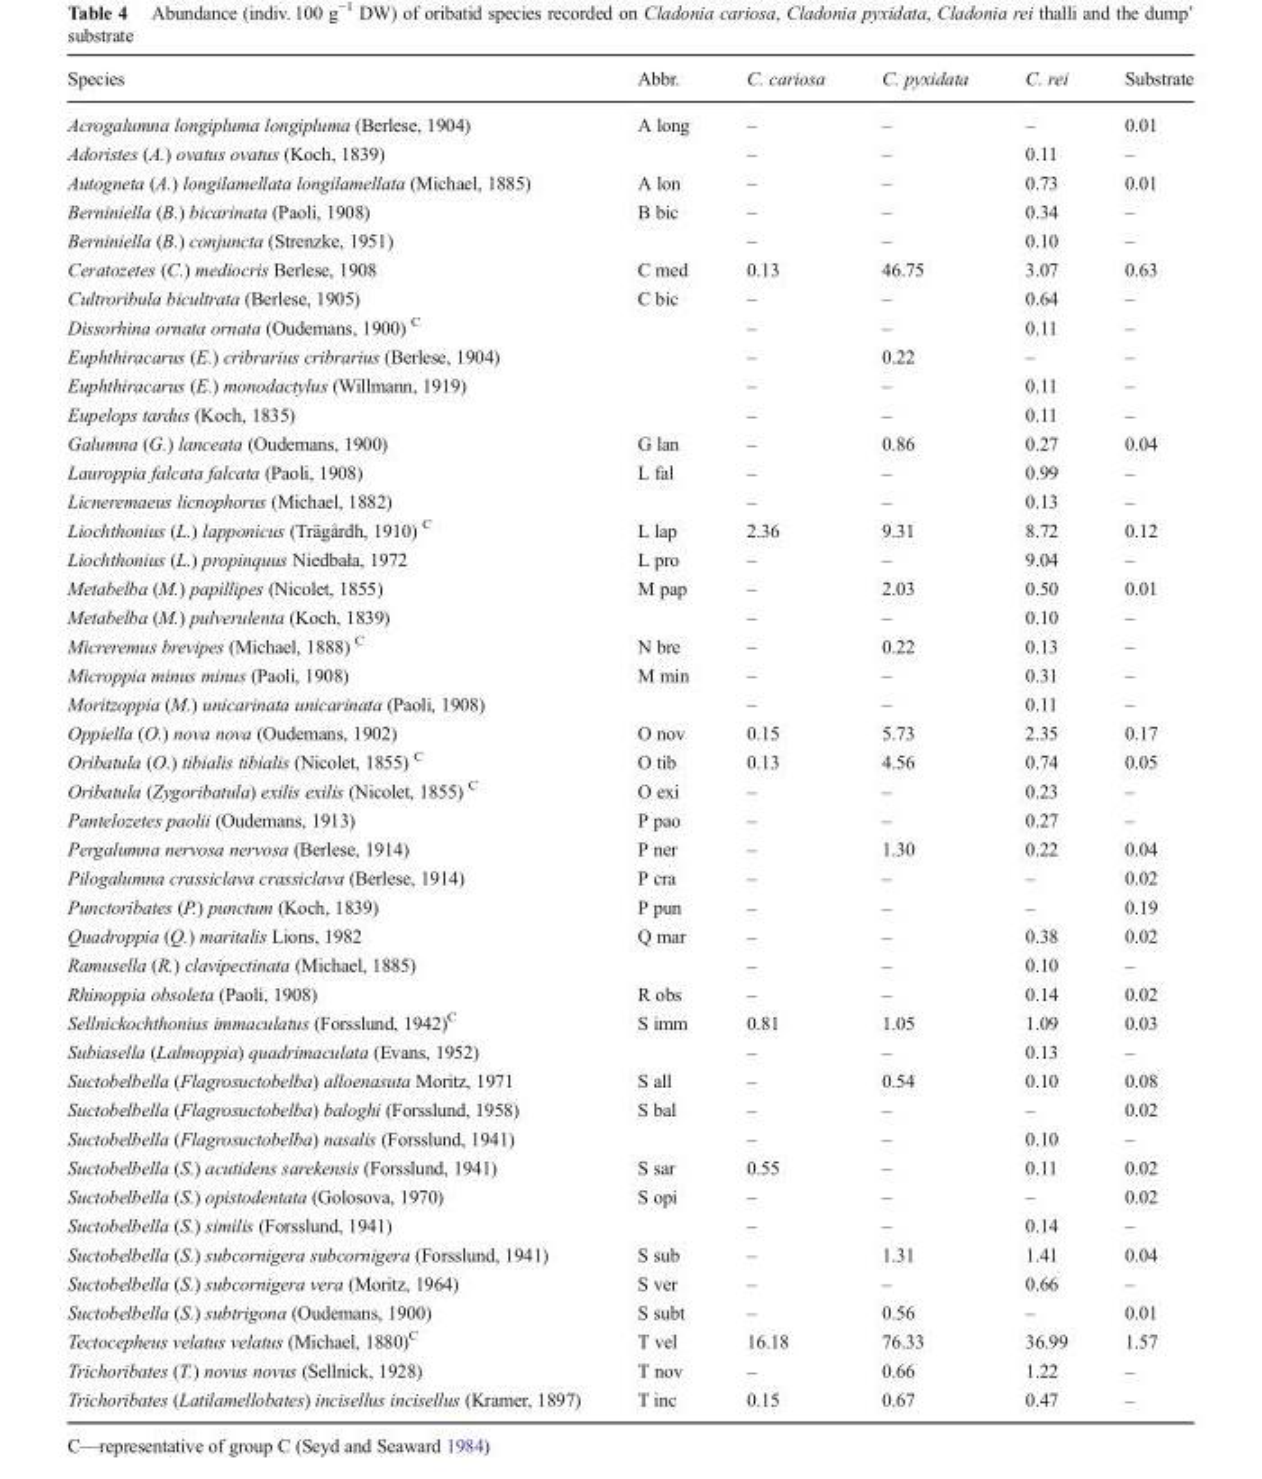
<table><thead><tr><td>Species</td><td>Abbr.</td><td>C. cariosa</td><td>C. pyxidata</td><td>C. rei</td><td>Substrate</td></tr></thead><tbody><tr><td>Acrogalumna longipluma longipluma (Berlese, 1904)</td><td>A long</td><td>–</td><td>–</td><td>–</td><td>0.01</td></tr><tr><td>Adoristes (A.) ovatus ovatus (Koch, 1839)</td><td></td><td>–</td><td>–</td><td>0.11</td><td>–</td></tr><tr><td>Autogneta (A.) longilamellata longilamellata (Michael, 1885)</td><td>A lon</td><td>–</td><td>–</td><td>0.73</td><td>0.01</td></tr><tr><td>Berniniella (B.) bicarinata (Paoli, 1908)</td><td>B bic</td><td>–</td><td>–</td><td>0.34</td><td>–</td></tr><tr><td>Berniniella (B.) conjuncta (Strenzke, 1951)</td><td></td><td>–</td><td>–</td><td>0.10</td><td>–</td></tr><tr><td>Ceratozetes (C.) mediocris Berlese, 1908</td><td>C med</td><td>0.13</td><td>46.75</td><td>3.07</td><td>0.63</td></tr><tr><td>Cultroribula bicultrata (Berlese, 1905)</td><td>C bic</td><td>–</td><td>–</td><td>0.64</td><td>–</td></tr><tr><td>Dissorhina ornata ornata (Oudemans, 1900) <sup>C</sup></td><td></td><td>–</td><td>–</td><td>0.11</td><td>–</td></tr><tr><td>Euphthiracarus (E.) cribrarius cribrarius (Berlese, 1904)</td><td></td><td>–</td><td>0.22</td><td>–</td><td>–</td></tr><tr><td>Euphthiracarus (E.) monodactylus (Willmann, 1919)</td><td></td><td>–</td><td>–</td><td>0.11</td><td>–</td></tr><tr><td>Eupelops tardus (Koch, 1835)</td><td></td><td>–</td><td>–</td><td>0.11</td><td>–</td></tr><tr><td>Galumna (G.) lanceata (Oudemans, 1900)</td><td>G lan</td><td>–</td><td>0.86</td><td>0.27</td><td>0.04</td></tr><tr><td>Lauroppia falcata falcata (Paoli, 1908)</td><td>L fal</td><td>–</td><td>–</td><td>0.99</td><td>–</td></tr><tr><td>Licneremaeus licnophorus (Michael, 1882)</td><td></td><td>–</td><td>–</td><td>0.13</td><td>–</td></tr><tr><td>Liochthonius (L.) lapponicus (Trägårdh, 1910) <sup>C</sup></td><td>L lap</td><td>2.36</td><td>9.31</td><td>8.72</td><td>0.12</td></tr><tr><td>Liochthonius (L.) propinquus Niedbała, 1972</td><td>L pro</td><td>–</td><td>–</td><td>9.04</td><td>–</td></tr><tr><td>Metabelba (M.) papillipes (Nicolet, 1855)</td><td>M pap</td><td>–</td><td>2.03</td><td>0.50</td><td>0.01</td></tr><tr><td>Metabelba (M.) pulverulenta (Koch, 1839)</td><td></td><td>–</td><td>–</td><td>0.10</td><td>–</td></tr><tr><td>Micreremus brevipes (Michael, 1888) <sup>C</sup></td><td>N bre</td><td>–</td><td>0.22</td><td>0.13</td><td>–</td></tr><tr><td>Microppia minus minus (Paoli, 1908)</td><td>M min</td><td>–</td><td>–</td><td>0.31</td><td>–</td></tr><tr><td>Moritzoppia (M.) unicarinata unicarinata (Paoli, 1908)</td><td></td><td>–</td><td>–</td><td>0.11</td><td>–</td></tr><tr><td>Oppiella (O.) nova nova (Oudemans, 1902)</td><td>O nov</td><td>0.15</td><td>5.73</td><td>2.35</td><td>0.17</td></tr><tr><td>Oribatula (O.) tibialis tibialis (Nicolet, 1855) <sup>C</sup></td><td>O tib</td><td>0.13</td><td>4.56</td><td>0.74</td><td>0.05</td></tr><tr><td>Oribatula (Zygoribatula) exilis exilis (Nicolet, 1855) <sup>C</sup></td><td>O exi</td><td>–</td><td>–</td><td>0.23</td><td>–</td></tr><tr><td>Pantelozetes paolii (Oudemans, 1913)</td><td>P pao</td><td>–</td><td>–</td><td>0.27</td><td>–</td></tr><tr><td>Pergalumna nervosa nervosa (Berlese, 1914)</td><td>P ner</td><td>–</td><td>1.30</td><td>0.22</td><td>0.04</td></tr><tr><td>Pilogalumna crassiclava crassiclava (Berlese, 1914)</td><td>P cra</td><td>–</td><td>–</td><td>–</td><td>0.02</td></tr><tr><td>Punctoribates (P.) punctum (Koch, 1839)</td><td>P pun</td><td>–</td><td>–</td><td>–</td><td>0.19</td></tr><tr><td>Quadroppia (Q.) maritalis Lions, 1982</td><td>Q mar</td><td>–</td><td>–</td><td>0.38</td><td>0.02</td></tr><tr><td>Ramusella (R.) clavipectinata (Michael, 1885)</td><td></td><td>–</td><td>–</td><td>0.10</td><td>–</td></tr><tr><td>Rhinoppia obsoleta (Paoli, 1908)</td><td>R obs</td><td>–</td><td>–</td><td>0.14</td><td>0.02</td></tr><tr><td>Sellnickochthonius immaculatus (Forsslund, 1942)<sup>C</sup></td><td>S imm</td><td>0.81</td><td>1.05</td><td>1.09</td><td>0.03</td></tr><tr><td>Subiasella (Lalmoppia) quadrimaculata (Evans, 1952)</td><td></td><td>–</td><td>–</td><td>0.13</td><td>–</td></tr><tr><td>Suctobelbella (Flagrosuctobelba) alloenasuta Moritz, 1971</td><td>S all</td><td>–</td><td>0.54</td><td>0.10</td><td>0.08</td></tr><tr><td>Suctobelbella (Flagrosuctobelba) baloghi (Forsslund, 1958)</td><td>S bal</td><td>–</td><td>–</td><td>–</td><td>0.02</td></tr><tr><td>Suctobelbella (Flagrosuctobelba) nasalis (Forsslund, 1941)</td><td></td><td>–</td><td>–</td><td>0.10</td><td>–</td></tr><tr><td>Suctobelbella (S.) acutidens sarekensis (Forsslund, 1941)</td><td>S sar</td><td>0.55</td><td>–</td><td>0.11</td><td>0.02</td></tr><tr><td>Suctobelbella (S.) opistodentata (Golosova, 1970)</td><td>S opi</td><td>–</td><td>–</td><td>–</td><td>0.02</td></tr><tr><td>Suctobelbella (S.) similis (Forsslund, 1941)</td><td></td><td>–</td><td>–</td><td>0.14</td><td>–</td></tr><tr><td>Suctobelbella (S.) subcornigera subcornigera (Forsslund, 1941)</td><td>S sub</td><td>–</td><td>1.31</td><td>1.41</td><td>0.04</td></tr><tr><td>Suctobelbella (S.) subcornigera vera (Moritz, 1964)</td><td>S ver</td><td>–</td><td>–</td><td>0.66</td><td>–</td></tr><tr><td>Suctobelbella (S.) subtrigona (Oudemans, 1900)</td><td>S subt</td><td>–</td><td>0.56</td><td>–</td><td>0.01</td></tr><tr><td>Tectocepheus velatus velatus (Michael, 1880)<sup>C</sup></td><td>T vel</td><td>16.18</td><td>76.33</td><td>36.99</td><td>1.57</td></tr><tr><td>Trichoribates (T.) novus novus (Sellnick, 1928)</td><td>T nov</td><td>–</td><td>0.66</td><td>1.22</td><td>–</td></tr><tr><td>Trichoribates (Latilamellobates) incisellus incisellus (Kramer, 1897)</td><td>T inc</td><td>0.15</td><td>0.67</td><td>0.47</td><td>–</td></tr></tbody></table>